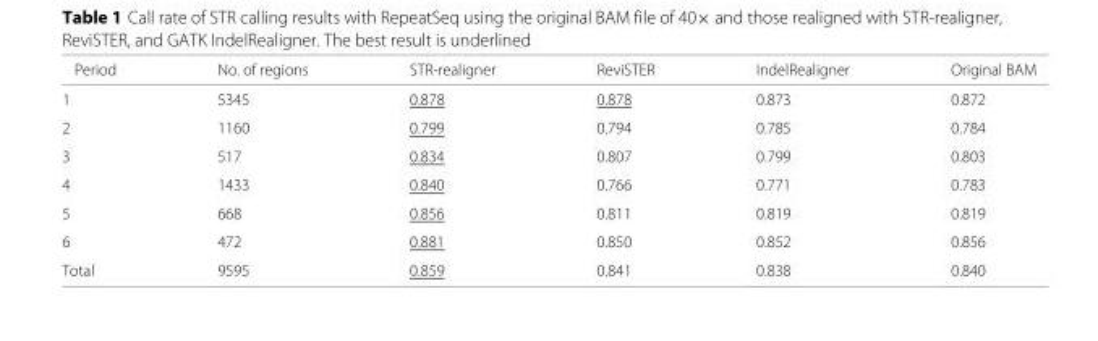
<table><thead><tr><td>Period</td><td>No. of regions</td><td>STR-realigner</td><td>ReviSTER</td><td>IndelRealigner</td><td>Original BAM</td></tr></thead><tbody><tr><td>1</td><td>5345</td><td>0.878</td><td>0.878</td><td>0.873</td><td>0.872</td></tr><tr><td>2</td><td>1160</td><td>0.799</td><td>0.794</td><td>0.785</td><td>0.784</td></tr><tr><td>3</td><td>517</td><td>0.834</td><td>0.807</td><td>0.799</td><td>0.803</td></tr><tr><td>4</td><td>1433</td><td>0.840</td><td>0.766</td><td>0.771</td><td>0.783</td></tr><tr><td>5</td><td>668</td><td>0.856</td><td>0.811</td><td>0.819</td><td>0.819</td></tr><tr><td>6</td><td>472</td><td>0.881</td><td>0.850</td><td>0.852</td><td>0.856</td></tr><tr><td>Total</td><td>9595</td><td>0.859</td><td>0.841</td><td>0.838</td><td>0.840</td></tr></tbody></table>